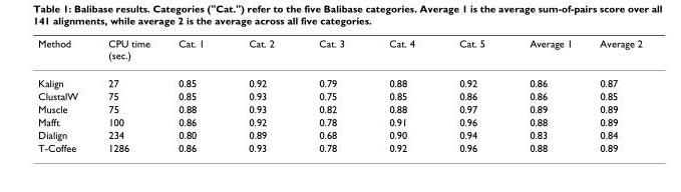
<table><thead><tr><td>Method</td><td>CPU time (sec.)</td><td>Cat. 1</td><td>Cat. 2</td><td>Cat. 3</td><td>Cat. 4</td><td>Cat. 5</td><td>Average 1</td><td>Average 2</td></tr></thead><tbody><tr><td>Kalign</td><td>27</td><td>0.85</td><td>0.92</td><td>0.79</td><td>0.88</td><td>0.92</td><td>0.86</td><td>0.87</td></tr><tr><td>ClustalW</td><td>75</td><td>0.85</td><td>0.93</td><td>0.75</td><td>0.85</td><td>0.86</td><td>0.86</td><td>0.85</td></tr><tr><td>Muscle</td><td>75</td><td>0.88</td><td>0.93</td><td>0.82</td><td>0.88</td><td>0.97</td><td>0.89</td><td>0.89</td></tr><tr><td>Mafft</td><td>100</td><td>0.86</td><td>0.92</td><td>0.78</td><td>0.91</td><td>0.96</td><td>0.88</td><td>0.89</td></tr><tr><td>Dialign</td><td>234</td><td>0.80</td><td>0.89</td><td>0.68</td><td>0.90</td><td>0.94</td><td>0.83</td><td>0.84</td></tr><tr><td>T-Coffee</td><td>1286</td><td>0.86</td><td>0.93</td><td>0.78</td><td>0.92</td><td>0.96</td><td>0.88</td><td>0.89</td></tr></tbody></table>